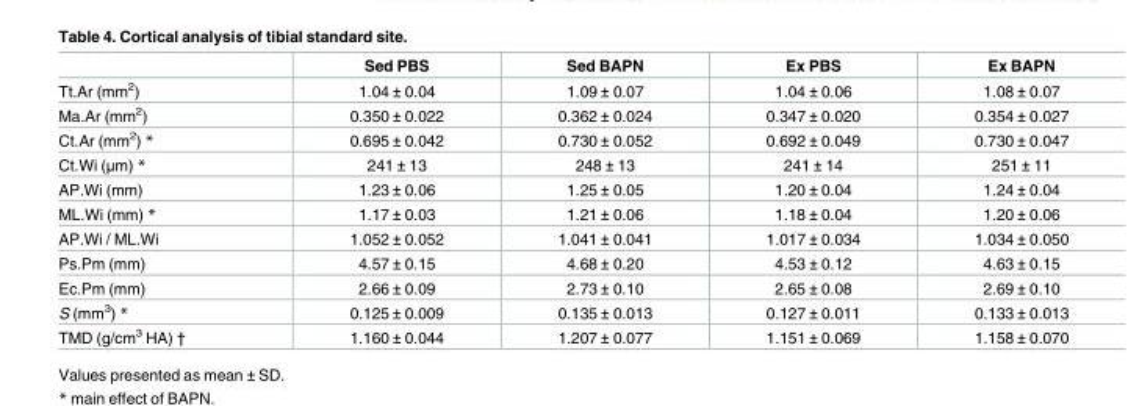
<table><thead><tr><td></td><td>Sed PBS</td><td>Sed BAPN</td><td>Ex PBS</td><td>Ex BAPN</td></tr></thead><tbody><tr><td>Tt.Ar (mm<sup>2</sup>)</td><td>1.04 ± 0.04</td><td>1.09 ± 0.07</td><td>1.04 ± 0.06</td><td>1.08 ± 0.07</td></tr><tr><td>Ma.Ar (mm<sup>2</sup>)</td><td>0.350 ± 0.022</td><td>0.362 ± 0.024</td><td>0.347 ± 0.020</td><td>0.354 ± 0.027</td></tr><tr><td>Ct.Ar (mm<sup>2</sup>) *</td><td>0.695 ± 0.042</td><td>0.730 ± 0.052</td><td>0.692 ± 0.049</td><td>0.730 ± 0.047</td></tr><tr><td>Ct.Wi (μm) *</td><td>241 ± 13</td><td>248 ± 13</td><td>241 ± 14</td><td>251 ± 11</td></tr><tr><td>AP.Wi (mm)</td><td>1.23 ± 0.06</td><td>1.25 ± 0.05</td><td>1.20 ± 0.04</td><td>1.24 ± 0.04</td></tr><tr><td>ML.Wi (mm) *</td><td>1.17 ± 0.03</td><td>1.21 ± 0.06</td><td>1.18 ± 0.04</td><td>1.20 ± 0.06</td></tr><tr><td>AP.Wi / ML.Wi</td><td>1.052 ± 0.052</td><td>1.041 ± 0.041</td><td>1.017 ± 0.034</td><td>1.034 ± 0.050</td></tr><tr><td>Ps.Pm (mm)</td><td>4.57 ± 0.15</td><td>4.68 ± 0.20</td><td>4.53 ± 0.12</td><td>4.63 ± 0.15</td></tr><tr><td>Ec.Pm (mm)</td><td>2.66 ± 0.09</td><td>2.73 ± 0.10</td><td>2.65 ± 0.08</td><td>2.69 ± 0.10</td></tr><tr><td>S (mm<sup>3</sup>) *</td><td>0.125 ± 0.009</td><td>0.135 ± 0.013</td><td>0.127 ± 0.011</td><td>0.133 ± 0.013</td></tr><tr><td>TMD (g/cm<sup>3</sup> HA) †</td><td>1.160 ± 0.044</td><td>1.207 ± 0.077</td><td>1.151 ± 0.069</td><td>1.158 ± 0.070</td></tr></tbody></table>